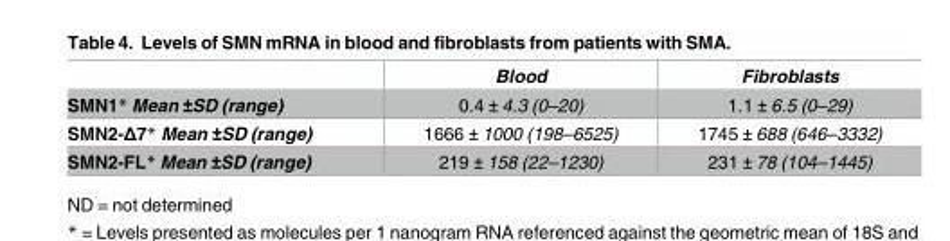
<table><thead><tr><td></td><td>Blood</td><td>Fibroblasts</td></tr></thead><tbody><tr><td>SMN1* Mean ±SD (range)</td><td>0.4 ± 4.3 (0–20)</td><td>1.1 ± 6.5 (0–29)</td></tr><tr><td>SMN2-Δ7* Mean ±SD (range)</td><td>1666 ± 1000 (198–6525)</td><td>1745 ± 688 (646–3332)</td></tr><tr><td>SMN2-FL* Mean ±SD (range)</td><td>219 ± 158 (22–1230)</td><td>231 ± 78 (104–1445)</td></tr></tbody></table>